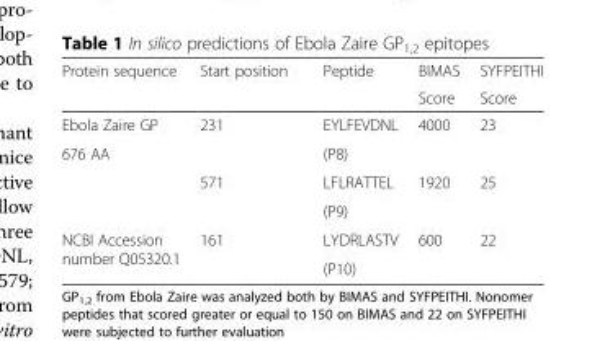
<table><thead><tr><td rowspan="2">Protein sequence</td><td rowspan="2">Start position</td><td rowspan="2">Peptide</td><td rowspan="2">BIMAS Score</td><td rowspan="2">SYFPEITHI Score</td></tr><tr></tr></thead><tbody><tr><td>Ebola Zaire GP</td><td rowspan="2">231</td><td>EYLFEVDNL</td><td rowspan="2">4000</td><td rowspan="2">23</td></tr><tr><td rowspan="3">676 AA</td><td>(P8)</td></tr><tr><td rowspan="2">571</td><td>LFLRATTEL</td><td rowspan="2">1920</td><td rowspan="2">25</td></tr><tr><td>(P9)</td></tr><tr><td rowspan="2">NCBI Accession number Q05320.1</td><td rowspan="2">161</td><td>LYDRLASTV</td><td rowspan="2">600</td><td rowspan="2">22</td></tr><tr><td>(P10)</td></tr></tbody></table>